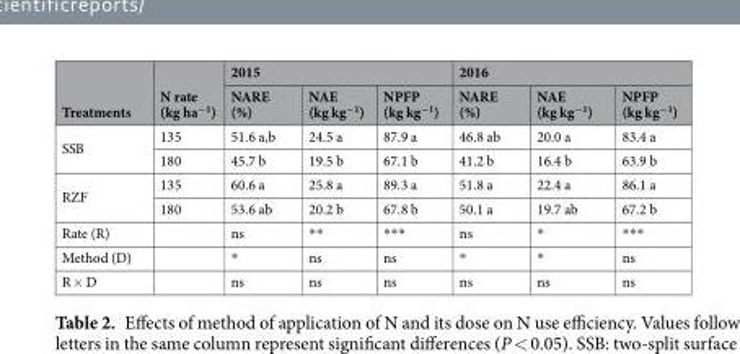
<table><thead><tr><td rowspan="2">Treatments</td><td rowspan="2">N rate (kg ha<sup>−1</sup>)</td><td colspan="3">2015</td><td colspan="3">2016</td></tr><tr><td>NARE (%)</td><td>NAE (kg kg<sup>−1</sup>)</td><td>NPFP (kg kg<sup>−1</sup>)</td><td>NARE (%)</td><td>NAE (kg kg<sup>−1</sup>)</td><td>NPFP (kg kg<sup>−1</sup>)</td></tr></thead><tbody><tr><td rowspan="2">SSB</td><td>135</td><td>51.6 a,b</td><td>24.5 a</td><td>87.9 a</td><td>46.8 ab</td><td>20.0 a</td><td>83.4 a</td></tr><tr><td>180</td><td>45.7 b</td><td>19.5 b</td><td>67.1 b</td><td>41.2 b</td><td>16.4 b</td><td>63.9 b</td></tr><tr><td rowspan="2">RZF</td><td>135</td><td>60.6 a</td><td>25.8 a</td><td>89.3 a</td><td>51.8 a</td><td>22.4 a</td><td>86.1 a</td></tr><tr><td>180</td><td>53.6 ab</td><td>20.2 b</td><td>67.8 b</td><td>50.1 a</td><td>19.7 ab</td><td>67.2 b</td></tr><tr><td>Rate (R)</td><td></td><td>ns</td><td>**</td><td>***</td><td>ns</td><td>*</td><td>***</td></tr><tr><td>Method (D)</td><td></td><td>*</td><td>ns</td><td>ns</td><td>*</td><td>*</td><td>ns</td></tr><tr><td>R × D</td><td></td><td>ns</td><td>ns</td><td>ns</td><td>ns</td><td>ns</td><td>ns</td></tr></tbody></table>